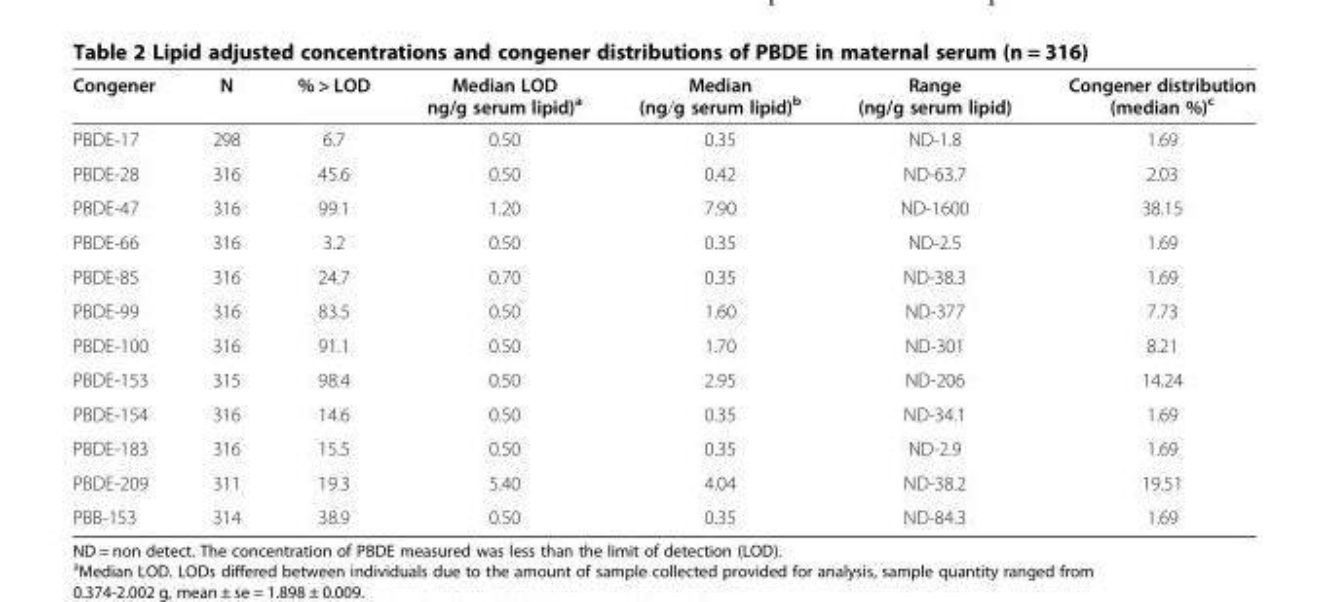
<table><thead><tr><td>Congener</td><td>N</td><td>% &gt; LOD</td><td>Median LOD ng/g serum lipid)<sup>a</sup></td><td>Median (ng/g serum lipid)<sup>b</sup></td><td>Range (ng/g serum lipid)</td><td>Congener distribution (median %)<sup>c</sup></td></tr></thead><tbody><tr><td>PBDE-17</td><td>298</td><td>6.7</td><td>0.50</td><td>0.35</td><td>ND-1.8</td><td>1.69</td></tr><tr><td>PBDE-28</td><td>316</td><td>45.6</td><td>0.50</td><td>0.42</td><td>ND-63.7</td><td>2.03</td></tr><tr><td>PBDE-47</td><td>316</td><td>99.1</td><td>1.20</td><td>7.90</td><td>ND-1600</td><td>38.15</td></tr><tr><td>PBDE-66</td><td>316</td><td>3.2</td><td>0.50</td><td>0.35</td><td>ND-2.5</td><td>1.69</td></tr><tr><td>PBDE-85</td><td>316</td><td>24.7</td><td>0.70</td><td>0.35</td><td>ND-38.3</td><td>1.69</td></tr><tr><td>PBDE-99</td><td>316</td><td>83.5</td><td>0.50</td><td>1.60</td><td>ND-377</td><td>7.73</td></tr><tr><td>PBDE-100</td><td>316</td><td>91.1</td><td>0.50</td><td>1.70</td><td>ND-301</td><td>8.21</td></tr><tr><td>PBDE-153</td><td>315</td><td>98.4</td><td>0.50</td><td>2.95</td><td>ND-206</td><td>14.24</td></tr><tr><td>PBDE-154</td><td>316</td><td>14.6</td><td>0.50</td><td>0.35</td><td>ND-34.1</td><td>1.69</td></tr><tr><td>PBDE-183</td><td>316</td><td>15.5</td><td>0.50</td><td>0.35</td><td>ND-2.9</td><td>1.69</td></tr><tr><td>PBDE-209</td><td>311</td><td>19.3</td><td>5.40</td><td>4.04</td><td>ND-38.2</td><td>19.51</td></tr><tr><td>PBB-153</td><td>314</td><td>38.9</td><td>0.50</td><td>0.35</td><td>ND-84.3</td><td>1.69</td></tr></tbody></table>